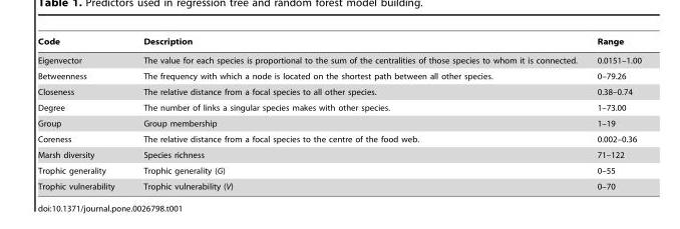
<table><thead><tr><td>Code</td><td>Description</td><td>Range</td></tr></thead><tbody><tr><td>Eigenvector</td><td>The value for each species is proportional to the sum of the centralities of those species to whom it is connected.</td><td>0.0151–1.00</td></tr><tr><td>Betweenness</td><td>The frequency with which a node is located on the shortest path between all other species.</td><td>0–79.26</td></tr><tr><td>Closeness</td><td>The relative distance from a focal species to all other species.</td><td>0.38–0.74</td></tr><tr><td>Degree</td><td>The number of links a singular species makes with other species.</td><td>1–73.00</td></tr><tr><td>Group</td><td>Group membership</td><td>1–19</td></tr><tr><td>Coreness</td><td>The relative distance from a focal species to the centre of the food web.</td><td>0.002–0.36</td></tr><tr><td>Marsh diversity</td><td>Species richness</td><td>71–122</td></tr><tr><td>Trophic generality</td><td>Trophic generality (G)</td><td>0–55</td></tr><tr><td>Trophic vulnerability</td><td>Trophic vulnerability (V)</td><td>0–70</td></tr></tbody></table>